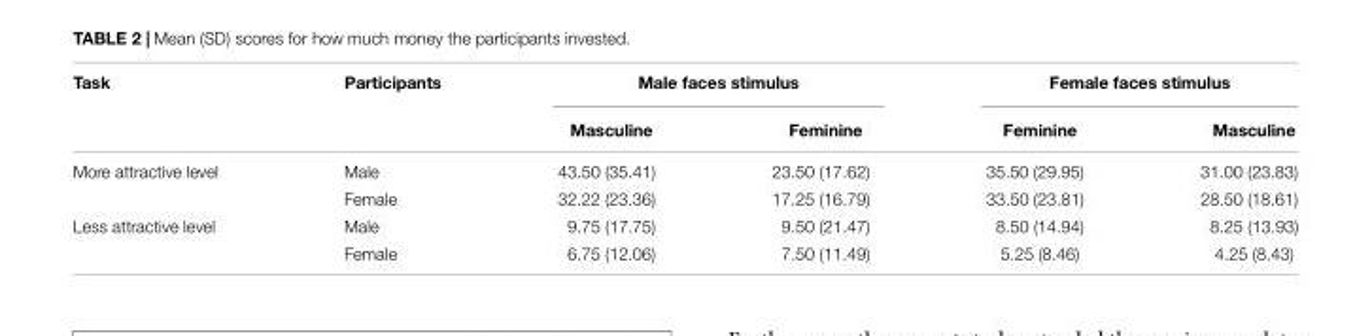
<table><thead><tr><td rowspan="2">Task</td><td rowspan="2">Participants</td><td colspan="2">Male faces stimulus</td><td colspan="2">Female faces stimulus</td></tr><tr><td>Masculine</td><td>Feminine</td><td>Feminine</td><td>Masculine</td></tr></thead><tbody><tr><td rowspan="2">More attractive level</td><td>Male</td><td>43.50 (35.41)</td><td>23.50 (17.62)</td><td>35.50 (29.95)</td><td>31.00 (23.83)</td></tr><tr><td>Female</td><td>32.22 (23.36)</td><td>17.25 (16.79)</td><td>33.50 (23.81)</td><td>28.50 (18.61)</td></tr><tr><td rowspan="2">Less attractive level</td><td>Male</td><td>9.75 (17.75)</td><td>9.50 (21.47)</td><td>8.50 (14.94)</td><td>8.25 (13.93)</td></tr><tr><td>Female</td><td>6.75 (12.06)</td><td>7.50 (11.49)</td><td>5.25 (8.46)</td><td>4.25 (8.43)</td></tr></tbody></table>